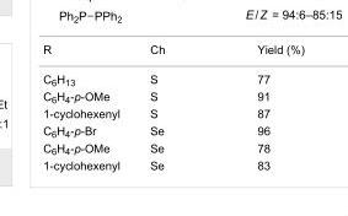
<table><tbody><tr><td>R</td><td>Ch</td><td>Yield (%)</td></tr><tr><td>C<sub>6</sub>H<sub>13</sub></td><td>S</td><td>77</td></tr><tr><td>C<sub>6</sub>H<sub>4</sub>-p-OMe</td><td>S</td><td>91</td></tr><tr><td>1-cyclohexenyl</td><td>S</td><td>87</td></tr><tr><td>C<sub>6</sub>H<sub>4</sub>-p-Br</td><td>Se</td><td>96</td></tr><tr><td>C<sub>6</sub>H<sub>4</sub>-p-OMe</td><td>Se</td><td>78</td></tr><tr><td>1-cyclohexenyl</td><td>Se</td><td>83</td></tr></tbody></table>